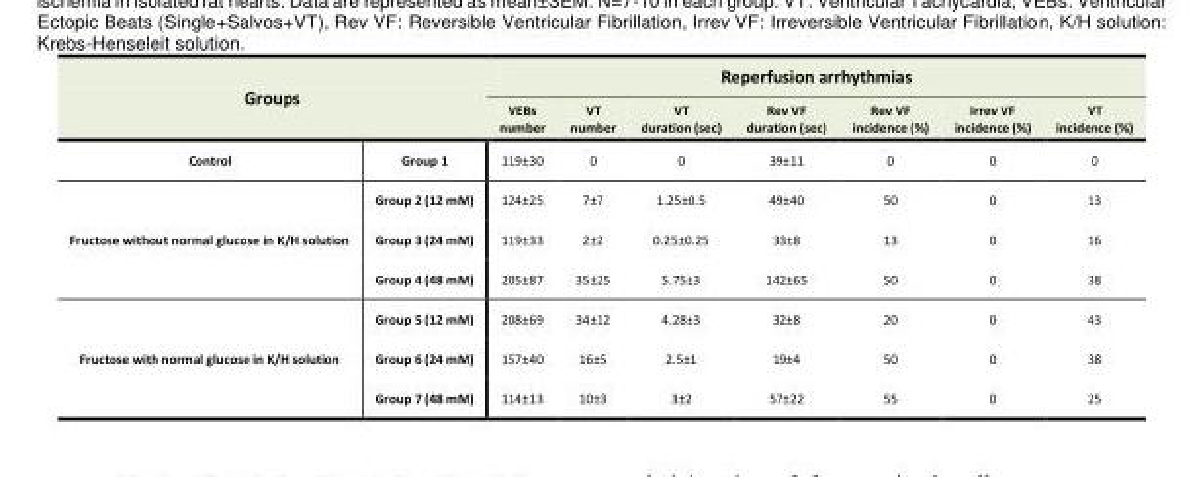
<table><tbody><tr><td rowspan="2" colspan="2">Groups</td><td colspan="7">Reperfusion arrhythmias</td></tr><tr><td>VEBs number</td><td>VT number</td><td>VT duration (sec)</td><td>Rev VF duration (sec)</td><td>Rev VF incidence (%)</td><td>Irrev VF incidence (%)</td><td>VT incidence (%)</td></tr><tr><td>Control</td><td>Group 1</td><td>119±30</td><td>0</td><td>0</td><td>39±11</td><td>0</td><td>0</td><td>0</td></tr><tr><td rowspan="3">Fructose without normal glucose in K/H solution</td><td>Group 2 (12 mM)</td><td>124±25</td><td>7±7</td><td>1.25±0.5</td><td>49±40</td><td>50</td><td>0</td><td>13</td></tr><tr><td>Group 3 (24 mM)</td><td>119±33</td><td>2±2</td><td>0.25±0.25</td><td>33±8</td><td>13</td><td>0</td><td>16</td></tr><tr><td>Group 4 (48 mM)</td><td>205±87</td><td>35±25</td><td>5.75±3</td><td>142±65</td><td>50</td><td>0</td><td>38</td></tr><tr><td rowspan="3">Fructose with normal glucose in K/H solution</td><td>Group 5 (12 mM)</td><td>208±69</td><td>34±12</td><td>4.28±3</td><td>32±8</td><td>20</td><td>0</td><td>43</td></tr><tr><td>Group 6 (24 mM)</td><td>157±40</td><td>16±5</td><td>2.5±1</td><td>19±4</td><td>50</td><td>0</td><td>38</td></tr><tr><td>Group 7 (48 mM)</td><td>114±13</td><td>10±3</td><td>3±2</td><td>57±22</td><td>55</td><td>0</td><td>25</td></tr></tbody></table>